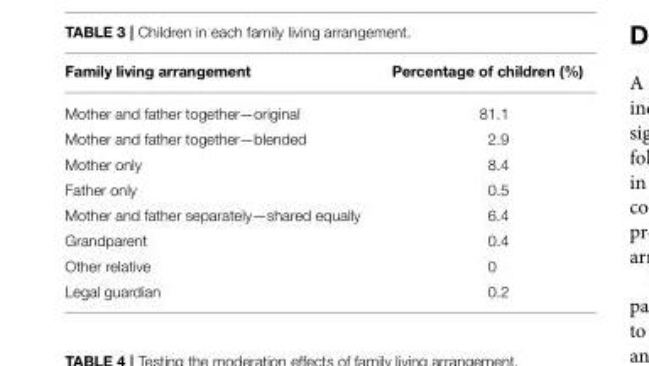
<table><thead><tr><td>Family living arrangement</td><td>Percentage of children (%)</td></tr></thead><tbody><tr><td>Mother and father together—original</td><td>81.1</td></tr><tr><td>Mother and father together—blended</td><td>2.9</td></tr><tr><td>Mother only</td><td>8.4</td></tr><tr><td>Father only</td><td>0.5</td></tr><tr><td>Mother and father separately—shared equally</td><td>6.4</td></tr><tr><td>Grandparent</td><td>0.4</td></tr><tr><td>Other relative</td><td>0</td></tr><tr><td>Legal guardian</td><td>0.2</td></tr></tbody></table>